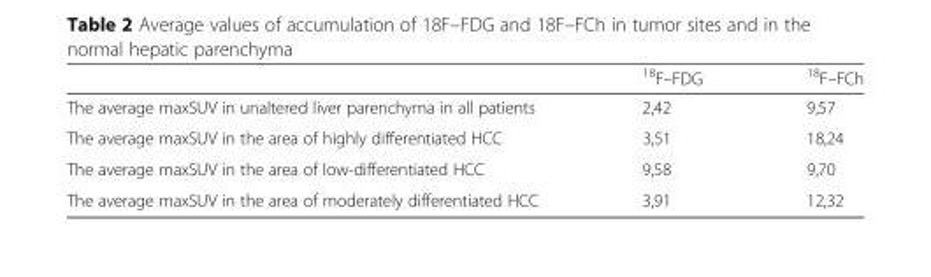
<table><thead><tr><td></td><td><sup>18</sup>F–FDG</td><td><sup>18</sup>F–FCh</td></tr></thead><tbody><tr><td>The average maxSUV in unaltered liver parenchyma in all patients</td><td>2,42</td><td>9,57</td></tr><tr><td>The average maxSUV in the area of highly differentiated HCC</td><td>3,51</td><td>18,24</td></tr><tr><td>The average maxSUV in the area of low-differentiated HCC</td><td>9,58</td><td>9,70</td></tr><tr><td>The average maxSUV in the area of moderately differentiated HCC</td><td>3,91</td><td>12,32</td></tr></tbody></table>